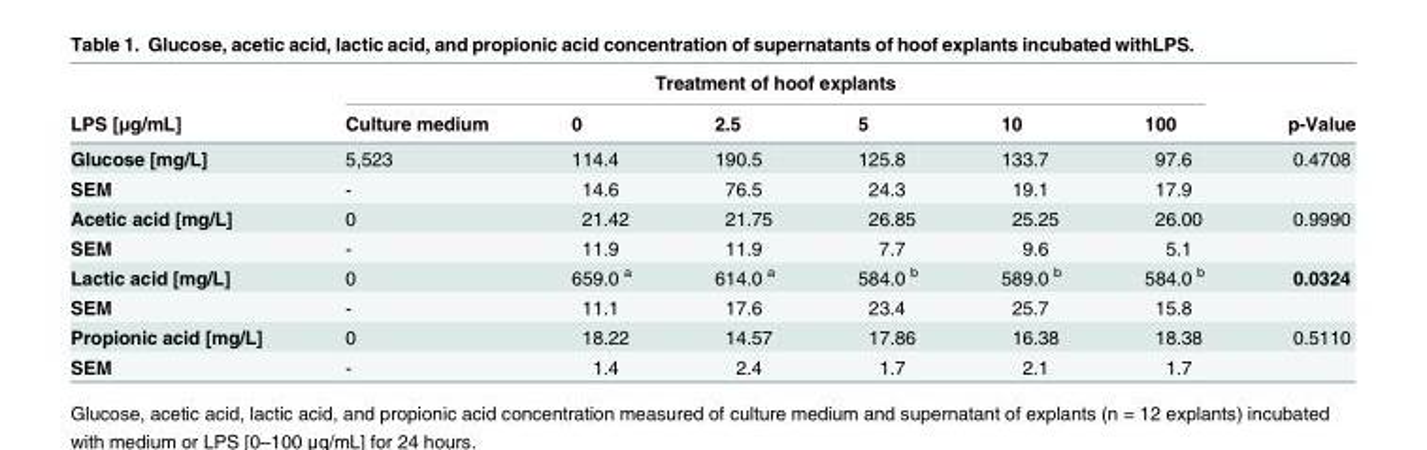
<table><thead><tr><td rowspan="2">LPS [μg/mL]</td><td colspan="6">Treatment of hoof explants</td><td rowspan="2">p-Value</td></tr><tr><td>Culture medium</td><td>0</td><td>2.5</td><td>5</td><td>10</td><td>100</td></tr></thead><tbody><tr><td>Glucose [mg/L]</td><td>5,523</td><td>114.4</td><td>190.5</td><td>125.8</td><td>133.7</td><td>97.6</td><td>0.4708</td></tr><tr><td>SEM</td><td>-</td><td>14.6</td><td>76.5</td><td>24.3</td><td>19.1</td><td>17.9</td><td></td></tr><tr><td>Acetic acid [mg/L]</td><td>0</td><td>21.42</td><td>21.75</td><td>26.85</td><td>25.25</td><td>26.00</td><td>0.9990</td></tr><tr><td>SEM</td><td>-</td><td>11.9</td><td>11.9</td><td>7.7</td><td>9.6</td><td>5.1</td><td></td></tr><tr><td>Lactic acid [mg/L]</td><td>0</td><td>659.0 <sup>a</sup></td><td>614.0 <sup>a</sup></td><td>584.0 <sup>b</sup></td><td>589.0 <sup>b</sup></td><td>584.0 <sup>b</sup></td><td>0.0324</td></tr><tr><td>SEM</td><td>-</td><td>11.1</td><td>17.6</td><td>23.4</td><td>25.7</td><td>15.8</td><td></td></tr><tr><td>Propionic acid [mg/L]</td><td>0</td><td>18.22</td><td>14.57</td><td>17.86</td><td>16.38</td><td>18.38</td><td>0.5110</td></tr><tr><td>SEM</td><td>-</td><td>1.4</td><td>2.4</td><td>1.7</td><td>2.1</td><td>1.7</td><td></td></tr></tbody></table>